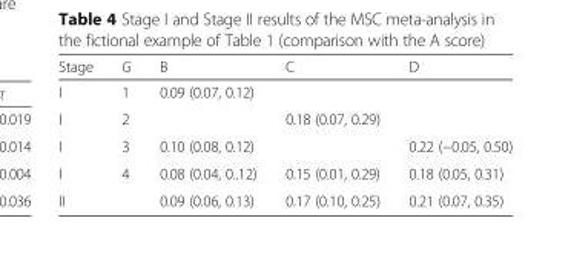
<table><thead><tr><td>Stage</td><td>G</td><td>B</td><td>C</td><td>D</td></tr></thead><tbody><tr><td>I</td><td>1</td><td>0.09 (0.07, 0.12)</td><td></td><td></td></tr><tr><td>I</td><td>2</td><td></td><td>0.18 (0.07, 0.29)</td><td></td></tr><tr><td>I</td><td>3</td><td>0.10 (0.08, 0.12)</td><td></td><td>0.22 (−0.05, 0.50)</td></tr><tr><td>I</td><td>4</td><td>0.08 (0.04, 0..12)</td><td>0.15 (0.01, 0.29)</td><td>0.18 (0.05, 0.31)</td></tr><tr><td>II</td><td></td><td>0.09 (0.06, 0.13)</td><td>0.17 (0.10, 0.25)</td><td>0.21 (0.07, 0.35)</td></tr></tbody></table>